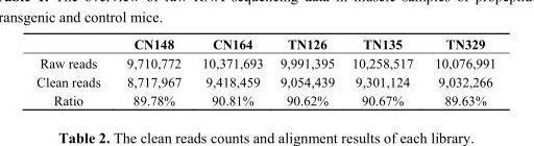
<table><thead><tr><td></td><td>CN148</td><td>CN164</td><td>TN126</td><td>TN135</td><td>TN329</td></tr></thead><tbody><tr><td>Raw reads</td><td>9,710,772</td><td>10,371,693</td><td>9,991,395</td><td>10,258,517</td><td>10,076,991</td></tr><tr><td>Clean reads</td><td>8,717,967</td><td>9,418,459</td><td>9,054,439</td><td>9,301,124</td><td>9,032,266</td></tr><tr><td>Ratio</td><td>89.78%</td><td>90.81%</td><td>90.62%</td><td>90.67%</td><td>89.63%</td></tr></tbody></table>